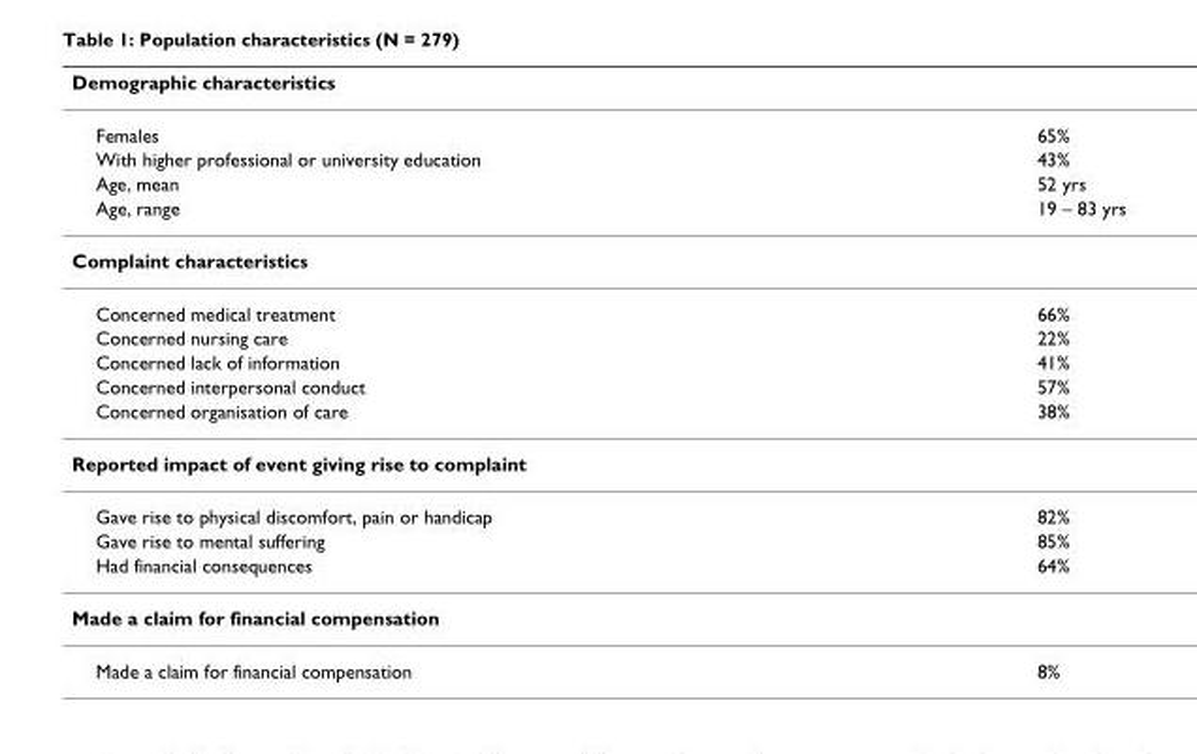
<table><thead><tr><td colspan="2">Demographic characteristics</td></tr><tr><td>Females</td><td>65%</td></tr></thead><tbody><tr><td>With higher professional or university education</td><td>43%</td></tr><tr><td>Age, mean</td><td>52 yrs</td></tr><tr><td>Age, range</td><td>19 – 83 yrs</td></tr><tr><td colspan="2">Complaint characteristics</td></tr><tr><td>Concerned medical treatment</td><td>66%</td></tr><tr><td>Concerned nursing care</td><td>22%</td></tr><tr><td>Concerned lack of information</td><td>41%</td></tr><tr><td>Concerned interpersonal conduct</td><td>57%</td></tr><tr><td>Concerned organisation of care</td><td>38%</td></tr><tr><td colspan="2">Reported impact of event giving rise to complaint</td></tr><tr><td>Gave rise to physical discomfort, pain or handicap</td><td>82%</td></tr><tr><td>Gave rise to mental suffering</td><td>85%</td></tr><tr><td>Had financial consequences</td><td>64%</td></tr><tr><td colspan="2">Made a claim for financial compensation</td></tr><tr><td>Made a claim for financial compensation</td><td>8%</td></tr></tbody></table>